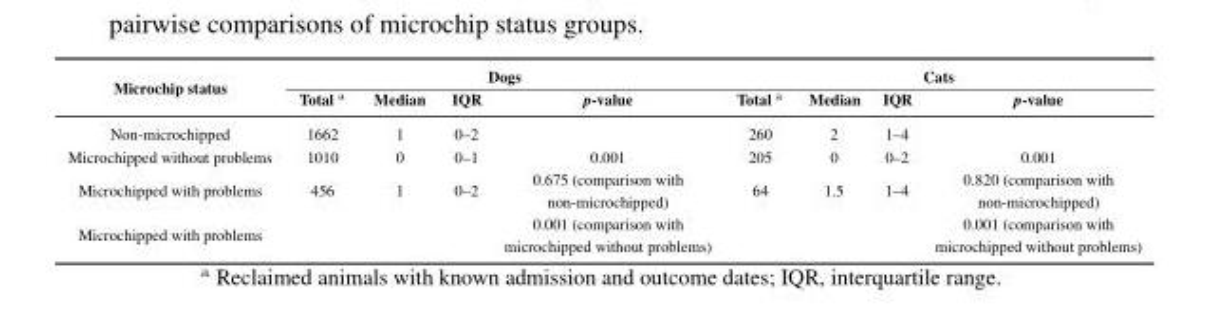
<table><thead><tr><td rowspan="2">Microchip status</td><td colspan="4">Dogs</td><td colspan="4">Cats</td></tr><tr><td>Total <sup>a</sup></td><td>Median</td><td>IQR</td><td>p-value</td><td>Total <sup>a</sup></td><td>Median</td><td>IQR</td><td>p-value</td></tr></thead><tbody><tr><td>Non-microchipped</td><td>1662</td><td>1</td><td>0–2</td><td></td><td>260</td><td>2</td><td>1–4</td><td></td></tr><tr><td>Microchipped without problems</td><td>1010</td><td>0</td><td>0–1</td><td>0.001</td><td>205</td><td>0</td><td>0–2</td><td>0.001</td></tr><tr><td>Microchipped with problems</td><td>456</td><td>1</td><td>0–2</td><td>0.675 (comparison with non-microchipped)</td><td>64</td><td>1.5</td><td>1–4</td><td>0.820 (comparison with non-microchipped)</td></tr><tr><td>Microchipped with problems</td><td></td><td></td><td></td><td>0.001 (comparison with microchipped without problems)</td><td></td><td></td><td></td><td>0.001 (comparison with microchipped without problems)</td></tr></tbody></table>